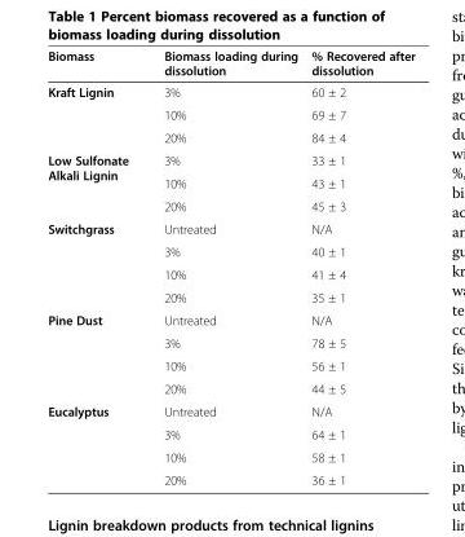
<table><thead><tr><td>Biomass</td><td>Biomass loading during dissolution</td><td>% Recovered after dissolution</td></tr></thead><tbody><tr><td rowspan="3">Kraft Lignin</td><td>3%</td><td>60 ± 2</td></tr><tr><td>10%</td><td>69 ± 7</td></tr><tr><td>20%</td><td>84 ± 4</td></tr><tr><td rowspan="3">Low Sulfonate Alkali Lignin</td><td>3%</td><td>33 ± 1</td></tr><tr><td>10%</td><td>43 ± 1</td></tr><tr><td>20%</td><td>45 ± 3</td></tr><tr><td rowspan="4">Switchgrass</td><td>Untreated</td><td>N/A</td></tr><tr><td>3%</td><td>40 ± 1</td></tr><tr><td>10%</td><td>41 ± 4</td></tr><tr><td>20%</td><td>35 ± 1</td></tr><tr><td rowspan="4">Pine Dust</td><td>Untreated</td><td>N/A</td></tr><tr><td>3%</td><td>78 ± 5</td></tr><tr><td>10%</td><td>56 ± 1</td></tr><tr><td>20%</td><td>44 ± 5</td></tr><tr><td rowspan="4">Eucalyptus</td><td>Untreated</td><td>N/A</td></tr><tr><td>3%</td><td>64 ± 1</td></tr><tr><td>10%</td><td>58 ± 1</td></tr><tr><td>20%</td><td>36 ± 1</td></tr></tbody></table>